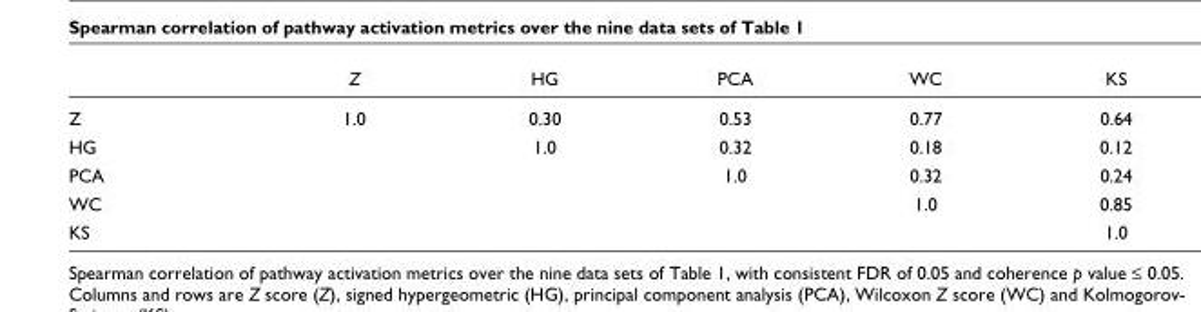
<table><thead><tr><td></td><td>Z</td><td>HG</td><td>PCA</td><td>WC</td><td>KS</td></tr></thead><tbody><tr><td>Z</td><td>1.0</td><td>0.30</td><td>0.53</td><td>0.77</td><td>0.64</td></tr><tr><td>HG</td><td></td><td>1.0</td><td>0.32</td><td>0.18</td><td>0.12</td></tr><tr><td>PCA</td><td></td><td></td><td>1.0</td><td>0.32</td><td>0.24</td></tr><tr><td>WC</td><td></td><td></td><td></td><td>1.0</td><td>0.85</td></tr><tr><td>KS</td><td></td><td></td><td></td><td></td><td>1.0</td></tr></tbody></table>